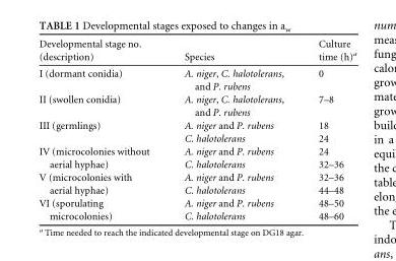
<table><thead><tr><td>Developmental stage no. (description)</td><td>Species</td><td>Culture time (h)<sup>a</sup></td></tr></thead><tbody><tr><td>I (dormant conidia)</td><td>A. niger, C. halotolerans, and P. rubens</td><td>0</td></tr><tr><td>II (swollen conidia)</td><td>A. niger, C. halotolerans, and P. rubens</td><td>7–8</td></tr><tr><td rowspan="2">III (germlings)</td><td>A. niger and P. rubens</td><td>18</td></tr><tr><td>C. halotolerans</td><td>24</td></tr><tr><td rowspan="2">IV (microcolonies without aerial hyphae)</td><td>A. niger and P. rubens</td><td>24</td></tr><tr><td>C. halotolerans</td><td>32–36</td></tr><tr><td rowspan="2">V (microcolonies with aerial hyphae)</td><td>A. niger and P. rubens</td><td>32–36</td></tr><tr><td>C. halotolerans</td><td>44–48</td></tr><tr><td rowspan="2">VI (sporulating microcolonies)</td><td>A. niger and P. rubens</td><td>48–50</td></tr><tr><td>C. halotolerans</td><td>48–60</td></tr></tbody></table>